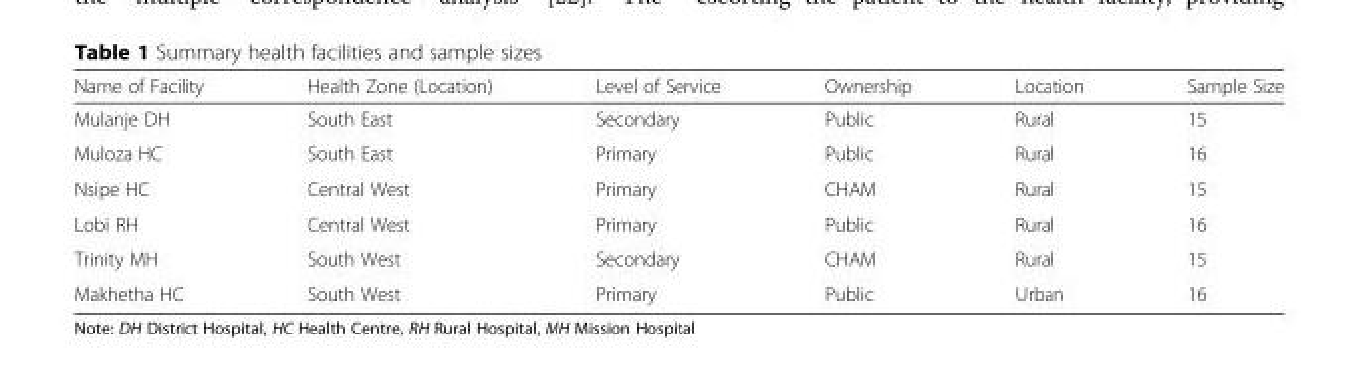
<table><thead><tr><td>Name of Facility</td><td>Health Zone (Location)</td><td>Level of Service</td><td>Ownership</td><td>Location</td><td>Sample Size</td></tr></thead><tbody><tr><td>Mulanje DH</td><td>South East</td><td>Secondary</td><td>Public</td><td>Rural</td><td>15</td></tr><tr><td>Muloza HC</td><td>South East</td><td>Primary</td><td>Public</td><td>Rural</td><td>16</td></tr><tr><td>Nsipe HC</td><td>Central West</td><td>Primary</td><td>CHAM</td><td>Rural</td><td>15</td></tr><tr><td>Lobi RH</td><td>Central West</td><td>Primary</td><td>Public</td><td>Rural</td><td>16</td></tr><tr><td>Trinity MH</td><td>South West</td><td>Secondary</td><td>CHAM</td><td>Rural</td><td>15</td></tr><tr><td>Makhetha HC</td><td>South West</td><td>Primary</td><td>Public</td><td>Urban</td><td>16</td></tr></tbody></table>